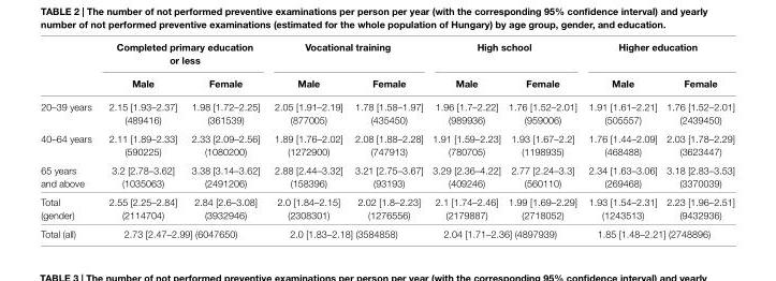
<table><thead><tr><td rowspan="2"></td><td colspan="2">completed primary education or less</td><td colspan="2">Vocational training</td><td colspan="2">high school</td><td colspan="2">higher education</td></tr><tr><td>Male</td><td>Female</td><td>Male</td><td>Female</td><td>Male</td><td>Female</td><td>Male</td><td>Female</td></tr></thead><tbody><tr><td>20–39 years</td><td>2.15 [1.93–2.37] (489416)</td><td>1.98 [1.72–2.25] (361539)</td><td>2.05 [1.91–2.19] (877005)</td><td>1.78 [1.58–1.97] (435450)</td><td>1.96 [1.7–2.22] (989936)</td><td>1.76 [1.52–2.01] (959006)</td><td>1.91 [1.61–2.21] (505557)</td><td>1.76 [1.52–2.01] (2439450)</td></tr><tr><td>40–64 years</td><td>2.11 [1.89–2.33] (590225)</td><td>2.33 [2.09–2.56] (1080200)</td><td>1.89 [1.76–2.02] (1272900)</td><td>2.08 [1.88–2.28] (747913)</td><td>1.91 [1.59–2.23] (780705)</td><td>1.93 [1.67–2.2] (1198935)</td><td>1.76 [1.44–2.09] (468488)</td><td>2.03 [1.78–2.29] (3623447)</td></tr><tr><td>65 years and above</td><td>3.2 [2.78–3.62] (1035063)</td><td>3.38 [3.14–3.62] (2491206)</td><td>2.88 [2.44–3.32] (158396)</td><td>3.21 [2.75–3.67] (93193)</td><td>3.29 [2.36–4.22] (409246)</td><td>2.77 [2.24–3.3] (560110)</td><td>2.34 [1.63–3.06] (269468)</td><td>3.18 [2.83–3.53] (3370039)</td></tr><tr><td>Total (gender)</td><td>2.55 [2.25–2.84] (2114704)</td><td>2.84 [2.6–3.08] (3932946)</td><td>2.0 [1.84–2.15] (2308301)</td><td>2.02 [1.8–2.23] (1276556)</td><td>2.1 [1.74–2.46] (2179887)</td><td>1.99 [1.69–2.29] (2718052)</td><td>1.93 [1.54–2.31] (1243513)</td><td>2.23 [1.96–2.51] (9432936)</td></tr><tr><td>Total (all)</td><td colspan="2">2.73 [2.47–2.99] (6047650)</td><td colspan="2">2.0 [1.83–2.18] (3584858)</td><td colspan="2">2.04 [1.71–2.36] (4897939)</td><td colspan="2">1.85 [1.48–2.21] (2748896)</td></tr></tbody></table>